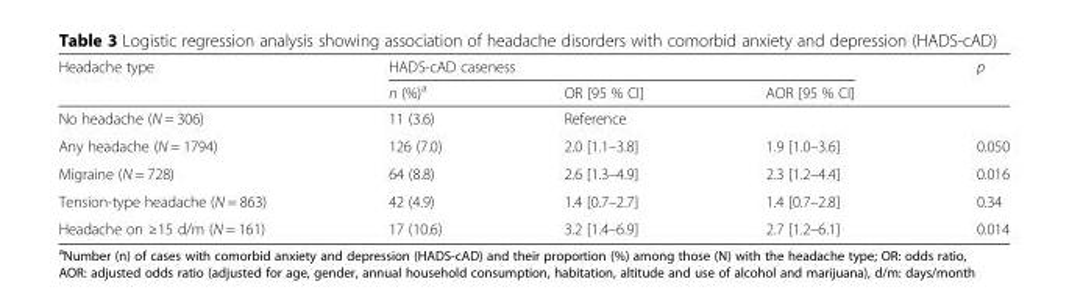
<table><thead><tr><td rowspan="2">Headache type</td><td colspan="3">HADS-cAD caseness</td><td rowspan="2">p</td></tr><tr><td>n (%)<sup>a</sup></td><td>OR [95 % CI]</td><td>AOR [95 % CI]</td></tr></thead><tbody><tr><td>No headache (N = 306)</td><td>11 (3.6)</td><td colspan="3">Reference</td></tr><tr><td>Any headache (N = 1794)</td><td>126 (7.0)</td><td>2.0 [1.1–3.8]</td><td>1.9 [1.0–3.6]</td><td>0.050</td></tr><tr><td>Migraine (N = 728)</td><td>64 (8.8)</td><td>2.6 [1.3–4.9]</td><td>2.3 [1.2–4.4]</td><td>0.016</td></tr><tr><td>Tension-type headache (N = 863)</td><td>42 (4.9)</td><td>1.4 [0.7–2.7]</td><td>1.4 [0.7–2.8]</td><td>0.34</td></tr><tr><td>Headache on ≥15 d/m (N = 161)</td><td>17 (10.6)</td><td>3.2 [1.4–6.9]</td><td>2.7 [1.2–6.1]</td><td>0.014</td></tr></tbody></table>